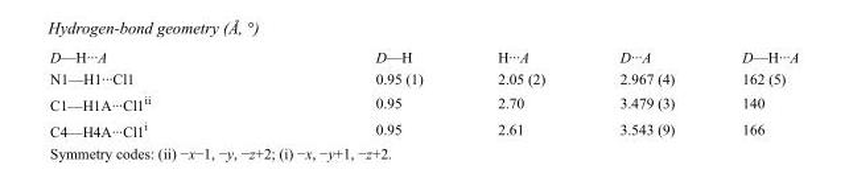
<table><tbody><tr><td>D—H···A</td><td>D—H</td><td>H···A</td><td>D···A</td><td>D—H···A</td></tr><tr><td>N1—H1···Cl1</td><td>0.95 (1)</td><td>2.05 (2)</td><td>2.967 (4)</td><td>162 (5)</td></tr><tr><td>C1—H1A···Cl1<sup>ii</sup></td><td>0.95</td><td>2.70</td><td>3.479 (3)</td><td>140</td></tr><tr><td>C4—H4A···Cl1<sup>i</sup></td><td>0.95</td><td>2.61</td><td>3.543 (9)</td><td>166</td></tr></tbody></table>